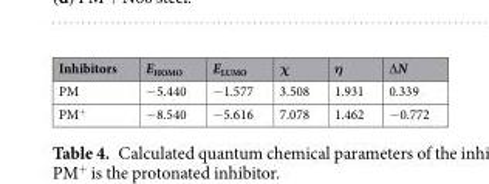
<table><thead><tr><td>Inhibitors</td><td>E<sub>HOMO</sub></td><td>E<sub>LUMO</sub></td><td>χ</td><td>η</td><td>∆N</td></tr></thead><tbody><tr><td>PM</td><td>−5.440</td><td>−1.577</td><td>3.508</td><td>1.931</td><td>0.339</td></tr><tr><td>PM<sup>+</sup></td><td>−8.540</td><td>−5.616</td><td>7.078</td><td>1.462</td><td>−0.772</td></tr></tbody></table>